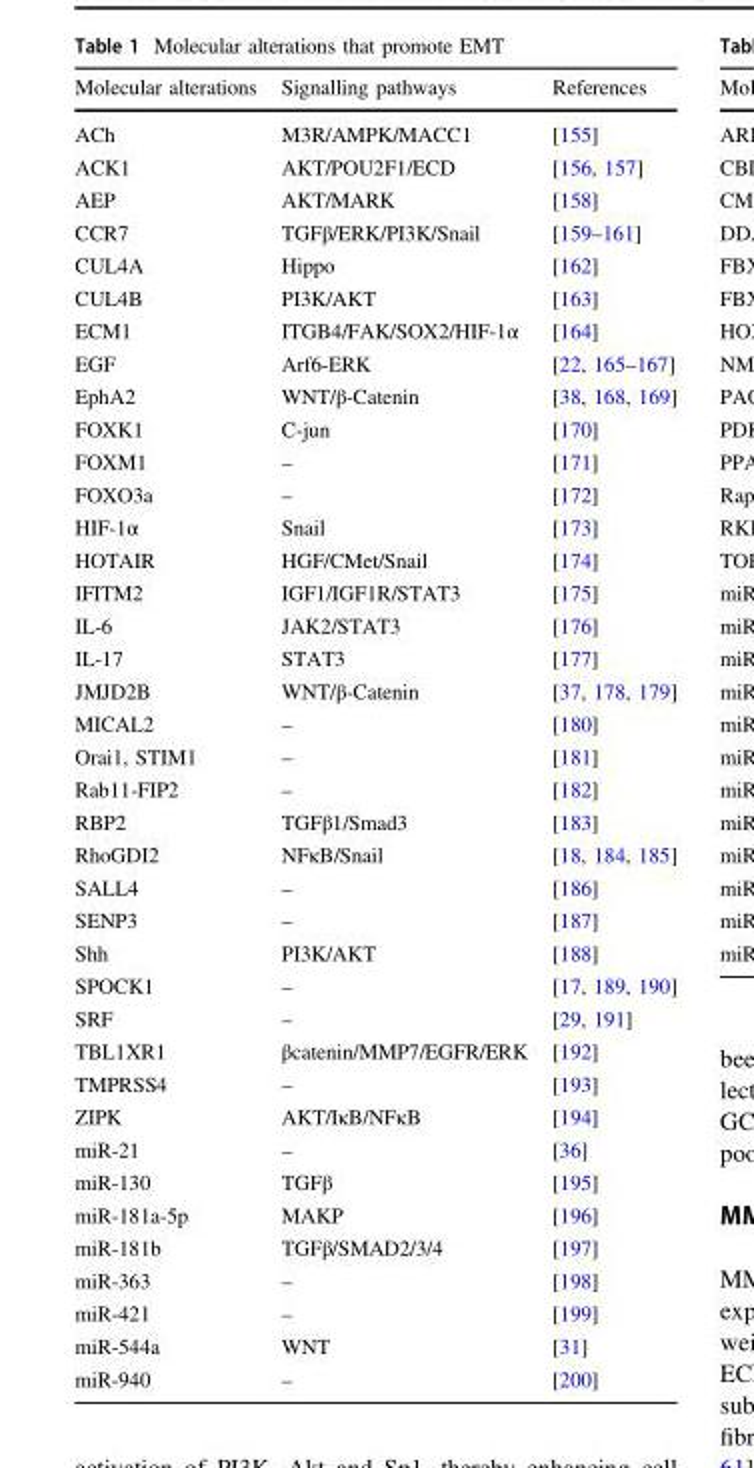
<table><thead><tr><td>Molecular alterations</td><td>Signalling pathways</td><td>References</td></tr></thead><tbody><tr><td>ACh</td><td>M3R/AMPK/MACC1</td><td>[155]</td></tr><tr><td>ACK1</td><td>AKT/POU2F1/ECD</td><td>[156, 157]</td></tr><tr><td>AEP</td><td>AKT/MARK</td><td>[158]</td></tr><tr><td>CCR7</td><td>TGFβ/ERK/PI3K/Snail</td><td>[159–161]</td></tr><tr><td>CUL4A</td><td>Hippo</td><td>[162]</td></tr><tr><td>CUL4B</td><td>PI3K/AKT</td><td>[163]</td></tr><tr><td>ECM1</td><td>ITGB4/FAK/SOX2/HIF-1α</td><td>[164]</td></tr><tr><td>EGF</td><td>Arf6-ERK</td><td>[22, 165–167]</td></tr><tr><td>EphA2</td><td>WNT/β-Catenin</td><td>[38, 168, 169]</td></tr><tr><td>FOXK1</td><td>C-jun</td><td>[170]</td></tr><tr><td>FOXM1</td><td>–</td><td>[171]</td></tr><tr><td>FOXO3a</td><td>–</td><td>[172]</td></tr><tr><td>HIF-1α</td><td>Snail</td><td>[173]</td></tr><tr><td>HOTAIR</td><td>HGF/CMet/Snail</td><td>[174]</td></tr><tr><td>IFITM2</td><td>IGF1/IGF1R/STAT3</td><td>[175]</td></tr><tr><td>IL-6</td><td>JAK2/STAT3</td><td>[176]</td></tr><tr><td>IL-17</td><td>STAT3</td><td>[177]</td></tr><tr><td>JMJD2B</td><td>WNT/β-Catenin</td><td>[37, 178, 179]</td></tr><tr><td>MICAL2</td><td>–</td><td>[180]</td></tr><tr><td>Orai1, STIM1</td><td>–</td><td>[181]</td></tr><tr><td>Rab11-FIP2</td><td>–</td><td>[182]</td></tr><tr><td>RBP2</td><td>TGFβ1/Smad3</td><td>[183]</td></tr><tr><td>RhoGDI2</td><td>NFκB/Snail</td><td>[18, 184, 185]</td></tr><tr><td>SALL4</td><td>–</td><td>[186]</td></tr><tr><td>SENP3</td><td>–</td><td>[187]</td></tr><tr><td>Shh</td><td>PI3K/AKT</td><td>[188]</td></tr><tr><td>SPOCK1</td><td>–</td><td>[17, 189, 190]</td></tr><tr><td>SRF</td><td>–</td><td>[29, 191]</td></tr><tr><td>TBL1XR1</td><td>βcatenin/MMP7/EGFR/ERK</td><td>[192]</td></tr><tr><td>TMPRSS4</td><td>–</td><td>[193]</td></tr><tr><td>ZIPK</td><td>AKT/IκB/NFκB</td><td>[194]</td></tr><tr><td>miR-21</td><td>–</td><td>[36]</td></tr><tr><td>miR-130</td><td>TGFβ</td><td>[195]</td></tr><tr><td>miR-181a-5p</td><td>MAKP</td><td>[196]</td></tr><tr><td>miR-181b</td><td>TGFβ/SMAD2/3/4</td><td>[197]</td></tr><tr><td>miR-363</td><td>–</td><td>[198]</td></tr><tr><td>miR-421</td><td>–</td><td>[199]</td></tr><tr><td>miR-544a</td><td>WNT</td><td>[31]</td></tr><tr><td>miR-940</td><td>–</td><td>[200]</td></tr></tbody></table>